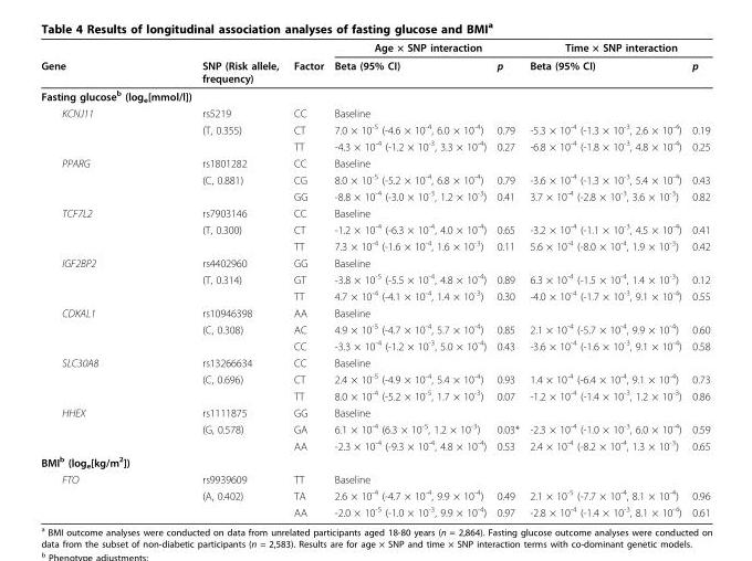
<table><thead><tr><td rowspan="2">Gene</td><td rowspan="2">SNP (Risk allele, frequency)</td><td rowspan="2">Factor</td><td colspan="2">Age × SNP interaction</td><td colspan="2">Time × SNP interaction</td></tr><tr><td>Beta (95% CI)</td><td>p</td><td>Beta (95% CI)</td><td>p</td></tr></thead><tbody><tr><td colspan="7">Fasting glucose<sup>b</sup> (log<sub>e</sub>[mmol/l])</td></tr><tr><td rowspan="3">KCNJ11</td><td>rs5219</td><td>CC</td><td>Baseline</td><td></td><td></td><td></td></tr><tr><td>(T, 0.355)</td><td>CT</td><td>7.0 × 10<sup>-5</sup> (-4.6 × 10<sup>-4</sup>, 6.0 × 10<sup>-4</sup>)</td><td>0.79</td><td>-5.3 × 10<sup>-4</sup> (-1.3 × 10<sup>-3</sup>, 2.6 × 10<sup>-4</sup>)</td><td>0.19</td></tr><tr><td></td><td>TT</td><td>-4.3 × 10<sup>-4</sup> (-1.2 × 10<sup>-3</sup>, 3.3 × 10<sup>-4</sup>)</td><td>0.27</td><td>-6.8 × 10<sup>-4</sup> (-1.8 × 10<sup>-3</sup>, 4.8 × 10<sup>-4</sup>)</td><td>0.25</td></tr><tr><td rowspan="3">PPARG</td><td>rs1801282</td><td>CC</td><td>Baseline</td><td></td><td></td><td></td></tr><tr><td>(C, 0.881)</td><td>CG</td><td>8.0 × 10<sup>-5</sup> (-5.2 × 10<sup>-4</sup>, 6.8 × 10<sup>-4</sup>)</td><td>0.79</td><td>-3.6 × 10<sup>-4</sup> (-1.3 × 10<sup>-3</sup>, 5.4 × 10<sup>-4</sup>)</td><td>0.43</td></tr><tr><td></td><td>GG</td><td>-8.8 × 10<sup>-4</sup> (-3.0 × 10<sup>-3</sup>, 1.2 × 10<sup>-3</sup>)</td><td>0.41</td><td>3.7 × 10<sup>-4</sup> (-2.8 × 10<sup>-3</sup>, 3.6 × 10<sup>-3</sup>)</td><td>0.82</td></tr><tr><td rowspan="3">TCF7L2</td><td>rs7903146</td><td>CC</td><td>Baseline</td><td></td><td></td><td></td></tr><tr><td>(T, 0.300)</td><td>CT</td><td>-1.2 × 10<sup>-4</sup> (-6.3 × 10<sup>-4</sup>, 4.0 × 10<sup>-4</sup>)</td><td>0.65</td><td>-3.2 × 10<sup>-4</sup> (-1.1 × 10<sup>-3</sup>, 4.5 × 10<sup>-4</sup>)</td><td>0.41</td></tr><tr><td></td><td>TT</td><td>7.3 × 10<sup>-4</sup> (-1.6 × 10<sup>-4</sup>, 1.6 × 10<sup>-3</sup>)</td><td>0.11</td><td>5.6 × 10<sup>-4</sup> (-8.0 × 10<sup>-4</sup>, 1.9 × 10<sup>-3</sup>)</td><td>0.42</td></tr><tr><td rowspan="3">IGF2BP2</td><td>rs4402960</td><td>GG</td><td>Baseline</td><td></td><td></td><td></td></tr><tr><td>(T, 0.314)</td><td>GT</td><td>-3.8 × 10<sup>-5</sup> (-5.5 × 10<sup>-4</sup>, 4.8 × 10<sup>-4</sup>)</td><td>0.89</td><td>6.3 × 10<sup>-4</sup> (-1.5 × 10<sup>-4</sup>, 1.4 × 10<sup>-3</sup>)</td><td>0.12</td></tr><tr><td></td><td>TT</td><td>4.7 × 10<sup>-4</sup> (-4.1 × 10<sup>-4</sup>, 1.4 × 10<sup>-3</sup>)</td><td>0.30</td><td>-4.0 × 10<sup>-4</sup> (-1.7 × 10<sup>-3</sup>, 9.1 × 10<sup>-4</sup>)</td><td>0.55</td></tr><tr><td rowspan="3">CDKAL1</td><td>rs10946398</td><td>AA</td><td>Baseline</td><td></td><td></td><td></td></tr><tr><td>(C, 0.308)</td><td>AC</td><td>4.9 × 10<sup>-5</sup> (-4.7 × 10<sup>-4</sup>, 5.7 × 10<sup>-4</sup>)</td><td>0.85</td><td>2.1 × 10<sup>-4</sup> (-5.7 × 10<sup>-4</sup>, 9.9 × 10<sup>-4</sup>)</td><td>0.60</td></tr><tr><td></td><td>CC</td><td>-3.3 × 10<sup>-4</sup> (-1.2 × 10<sup>-3</sup>, 5.0 × 10<sup>-4</sup>)</td><td>0.43</td><td>-3.6 × 10<sup>-4</sup> (-1.6 × 10<sup>-3</sup>, 9.1 × 10<sup>-4</sup>)</td><td>0.58</td></tr><tr><td rowspan="3">SLC30A8</td><td>rs13266634</td><td>CC</td><td>Baseline</td><td></td><td></td><td></td></tr><tr><td>(C, 0.696)</td><td>CT</td><td>2.4 × 10<sup>-5</sup> (-4.9 × 10<sup>-4</sup>, 5.4 × 10<sup>-4</sup>)</td><td>0.93</td><td>1.4 × 10<sup>-4</sup> (-6.4 × 10<sup>-4</sup>, 9.1 × 10<sup>-4</sup>)</td><td>0.73</td></tr><tr><td></td><td>TT</td><td>8.0 × 10<sup>-4</sup> (-5.2 × 10<sup>-5</sup>, 1.7 × 10<sup>-3</sup>)</td><td>0.07</td><td>-1.2 × 10<sup>-4</sup> (-1.4 × 10<sup>-3</sup>, 1.2 × 10<sup>-3</sup>)</td><td>0.86</td></tr><tr><td rowspan="3">HHEX</td><td>rs1111875</td><td>GG</td><td>Baseline</td><td></td><td></td><td></td></tr><tr><td>(G, 0.578)</td><td>GA</td><td>6.1 × 10<sup>-4</sup> (6.3 × 10<sup>-5</sup>, 1.2 × 10<sup>-3</sup>)</td><td>0.03*</td><td>-2.3 × 10<sup>-4</sup> (-1.0 × 10<sup>-3</sup>, 6.0 × 10<sup>-4</sup>)</td><td>0.59</td></tr><tr><td></td><td>AA</td><td>-2.3 × 10<sup>-4</sup> (-9.3 × 10<sup>-4</sup>, 4.8 × 10<sup>-4</sup>)</td><td>0.53</td><td>2.4 × 10<sup>-4</sup> (-8.2 × 10<sup>-4</sup>, 1.3 × 10<sup>-3</sup>)</td><td>0.65</td></tr><tr><td colspan="7">BMI<sup>b</sup> (log<sub>e</sub>[kg/m<sup>2</sup>])</td></tr><tr><td rowspan="3">FTO</td><td>rs9939609</td><td>TT</td><td>Baseline</td><td></td><td></td><td></td></tr><tr><td>(A, 0.402)</td><td>TA</td><td>2.6 × 10<sup>-4</sup> (-4.7 × 10<sup>-4</sup>, 9.9 × 10<sup>-4</sup>)</td><td>0.49</td><td>2.1 × 10<sup>-5</sup> (-7.7 × 10<sup>-4</sup>, 8.1 × 10<sup>-4</sup>)</td><td>0.96</td></tr><tr><td></td><td>AA</td><td>-2.0 × 10<sup>-5</sup> (-1.0 × 10<sup>-3</sup>, 9.9 × 10<sup>-4</sup>)</td><td>0.97</td><td>-2.8 × 10<sup>-4</sup> (-1.4 × 10<sup>-3</sup>, 8.1 × 10<sup>-4</sup>)</td><td>0.61</td></tr></tbody></table>